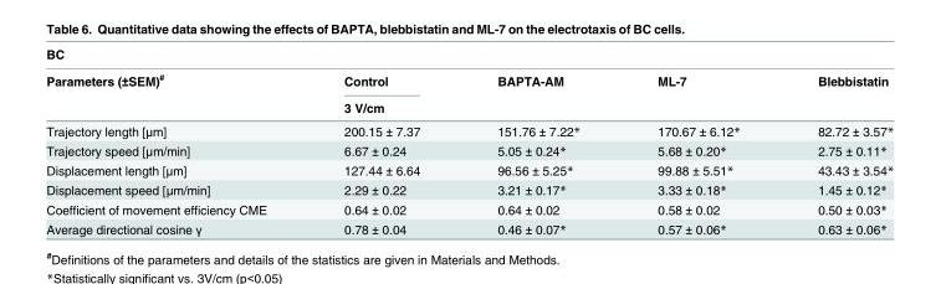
<table><thead><tr><td colspan="5">BC</td></tr><tr><td rowspan="2">Parameters (±SEM)<sup>#</sup></td><td>Control</td><td>BAPTA-AM</td><td>ML-7</td><td>Blebbistatin</td></tr><tr><td colspan="4">3 V/cm</td></tr></thead><tbody><tr><td>Trajectory length [μm]</td><td>200.15 ± 7.37</td><td>151.76 ± 7.22*</td><td>170.67 ± 6.12*</td><td>82.72 ± 3.57*</td></tr><tr><td>Trajectory speed [μm/min]</td><td>6.67 ± 0.24</td><td>5.05 ± 0.24*</td><td>5.68 ± 0.20*</td><td>2.75 ± 0.11*</td></tr><tr><td>Displacement length [μm]</td><td>127.44 ± 6.64</td><td>96.56 ± 5.25*</td><td>99.88 ± 5.51*</td><td>43.43 ± 3.54*</td></tr><tr><td>Displacement speed [μm/min]</td><td>2.29 ± 0.22</td><td>3.21 ± 0.17*</td><td>3.33 ± 0.18*</td><td>1.45 ± 0.12*</td></tr><tr><td>Coefficient of movement efficiency CME</td><td>0.64 ± 0.02</td><td>0.64 ± 0.02</td><td>0.58 ± 0.02</td><td>0.50 ± 0.03*</td></tr><tr><td>Average directional cosine γ</td><td>0.78 ± 0.04</td><td>0.46 ± 0.07*</td><td>0.57 ± 0.06*</td><td>0.63 ± 0.06*</td></tr></tbody></table>